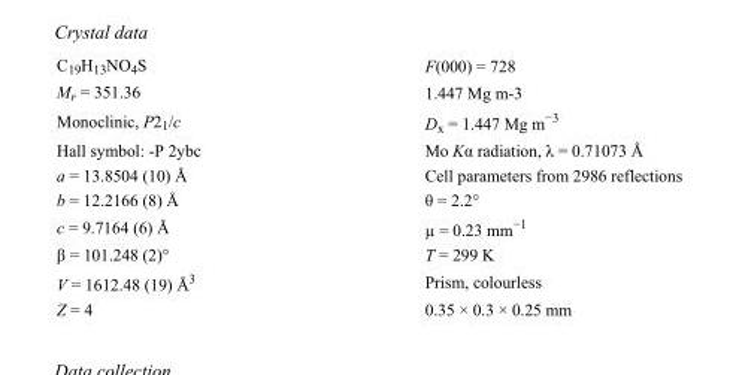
<table><tbody><tr><td>C<sub>19</sub>H<sub>13</sub>NO<sub>4</sub>S</td><td>F(000) = 728</td></tr><tr><td>M<sub>r</sub> = 351.36</td><td>1.447 Mg m-3</td></tr><tr><td>Monoclinic, P2<sub>1</sub>/c</td><td>D<sub>x</sub> = 1.447 Mg m<sup>−3</sup></td></tr><tr><td>Hall symbol: -P 2ybc</td><td>Mo Kα radiation, λ = 0.71073 Å</td></tr><tr><td>a = 13.8504 (10) Å</td><td>Cell parameters from 2986 reflections</td></tr><tr><td>b = 12.2166 (8) Å</td><td>θ = 2.2°</td></tr><tr><td>c = 9.7164 (6) Å</td><td>µ = 0.23 mm<sup>−1</sup></td></tr><tr><td>β = 101.248 (2)°</td><td>T = 299 K</td></tr><tr><td>V = 1612.48 (19) Å<sup>3</sup></td><td>Prism, colourless</td></tr><tr><td>Z = 4</td><td>0.35 × 0.3 × 0.25 mm</td></tr></tbody></table>